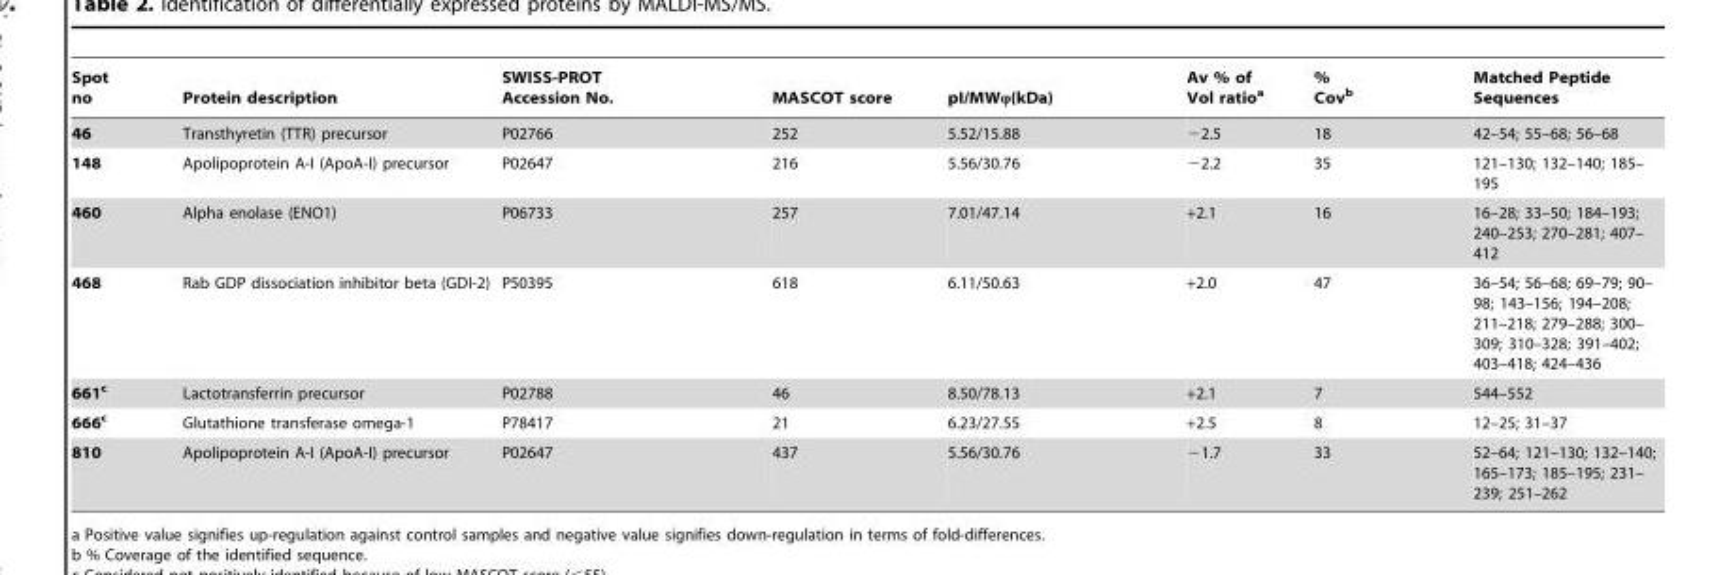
<table><thead><tr><td>Spot no</td><td>Protein description</td><td>SWISS-PROT Accession No.</td><td>MASCOT score</td><td>pI/MWϕ(kDa)</td><td>Av % of Vol ratio<sup>a</sup></td><td>% Cov<sup>b</sup></td><td>Matched Peptide Sequences</td></tr></thead><tbody><tr><td>46</td><td>Transthyretin (TTR) precursor</td><td>P02766</td><td>252</td><td>5.52/15.88</td><td>−2.5</td><td>18</td><td>42–54; 55–68; 56–68</td></tr><tr><td>148</td><td>Apolipoprotein A-I (ApoA-I) precursor</td><td>P02647</td><td>216</td><td>5.56/30.76</td><td>−2.2</td><td>35</td><td>121–130; 132–140; 185– 195</td></tr><tr><td>460</td><td>Alpha enolase (ENO1)</td><td>P06733</td><td>257</td><td>7.01/47.14</td><td>+2.1</td><td>16</td><td>16–28; 33–50; 184–193; 240–253; 270–281; 407– 412</td></tr><tr><td>468</td><td>Rab GDP dissociation inhibitor beta (GDI-2)</td><td>P50395</td><td>618</td><td>6.11/50.63</td><td>+2.0</td><td>47</td><td>36–54; 56–68; 69–79; 90– 98; 143–156; 194–208; 211–218; 279–288; 300– 309; 310–328; 391–402; 403–418; 424–436</td></tr><tr><td>661<sup>c</sup></td><td>Lactotransferrin precursor</td><td>P02788</td><td>46</td><td>8.50/78.13</td><td>+2.1</td><td>7</td><td>544–552</td></tr><tr><td>666<sup>c</sup></td><td>Glutathione transferase omega-1</td><td>P78417</td><td>21</td><td>6.23/27.55</td><td>+2.5</td><td>8</td><td>12–25; 31–37</td></tr><tr><td>810</td><td>Apolipoprotein A-I (ApoA-I) precursor</td><td>P02647</td><td>437</td><td>5.56/30.76</td><td>−1.7</td><td>33</td><td>52–64; 121–130; 132–140; 165–173; 185–195; 231– 239; 251–262</td></tr></tbody></table>